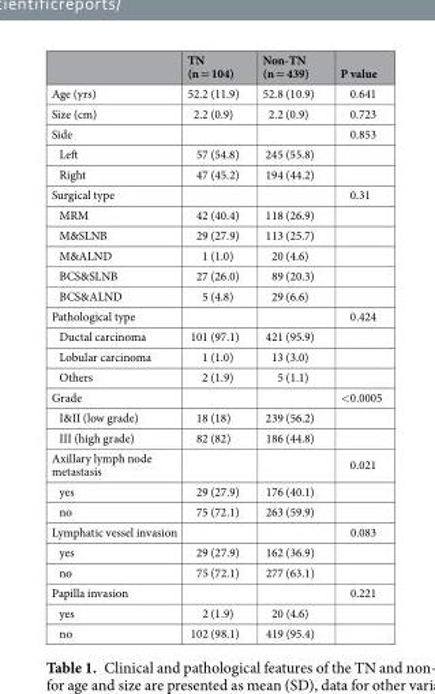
<table><thead><tr><td></td><td>TN (n = 104)</td><td>Non-TN (n = 439)</td><td>P value</td></tr></thead><tbody><tr><td>Age (yrs)</td><td>52.2 (11.9)</td><td>52.8 (10.9)</td><td>0.641</td></tr><tr><td>Size (cm)</td><td>2.2 (0.9)</td><td>2.2 (0.9)</td><td>0.723</td></tr><tr><td>Side</td><td></td><td></td><td>0.853</td></tr><tr><td>Left</td><td>57 (54.8)</td><td>245 (55.8)</td><td></td></tr><tr><td>Right</td><td>47 (45.2)</td><td>194 (44.2)</td><td></td></tr><tr><td>Surgical type</td><td></td><td></td><td>0.31</td></tr><tr><td>MRM</td><td>42 (40.4)</td><td>118 (26.9)</td><td></td></tr><tr><td>M&amp;SLNB</td><td>29 (27.9)</td><td>113 (25.7)</td><td></td></tr><tr><td>M&amp;ALND</td><td>1 (1.0)</td><td>20 (4.6)</td><td></td></tr><tr><td>BCS&amp;SLNB</td><td>27 (26.0)</td><td>89 (20.3)</td><td></td></tr><tr><td>BCS&amp;ALND</td><td>5 (4.8)</td><td>29 (6.6)</td><td></td></tr><tr><td>Pathological type</td><td></td><td></td><td>0.424</td></tr><tr><td>Ductal carcinoma</td><td>101 (97.1)</td><td>421 (95.9)</td><td></td></tr><tr><td>Lobular carcinoma</td><td>1 (1.0)</td><td>13 (3.0)</td><td></td></tr><tr><td>Others</td><td>2 (1.9)</td><td>5 (1.1)</td><td></td></tr><tr><td>Grade</td><td></td><td></td><td>&lt;0.0005</td></tr><tr><td>I&amp;II (low grade)</td><td>18 (18)</td><td>239 (56.2)</td><td></td></tr><tr><td>III (high grade)</td><td>82 (82)</td><td>186 (44.8)</td><td></td></tr><tr><td>Axillary lymph node metastasis</td><td></td><td></td><td>0.021</td></tr><tr><td>yes</td><td>29 (27.9)</td><td>176 (40.1)</td><td></td></tr><tr><td>no</td><td>75 (72.1)</td><td>263 (59.9)</td><td></td></tr><tr><td>Lymphatic vessel invasion</td><td></td><td></td><td>0.083</td></tr><tr><td>yes</td><td>29 (27.9)</td><td>162 (36.9)</td><td></td></tr><tr><td>no</td><td>75 (72.1)</td><td>277 (63.1)</td><td></td></tr><tr><td>Papilla invasion</td><td></td><td></td><td>0.221</td></tr><tr><td>yes</td><td>2 (1.9)</td><td>20 (4.6)</td><td></td></tr><tr><td>no</td><td>102 (98.1)</td><td>419 (95.4)</td><td></td></tr></tbody></table>